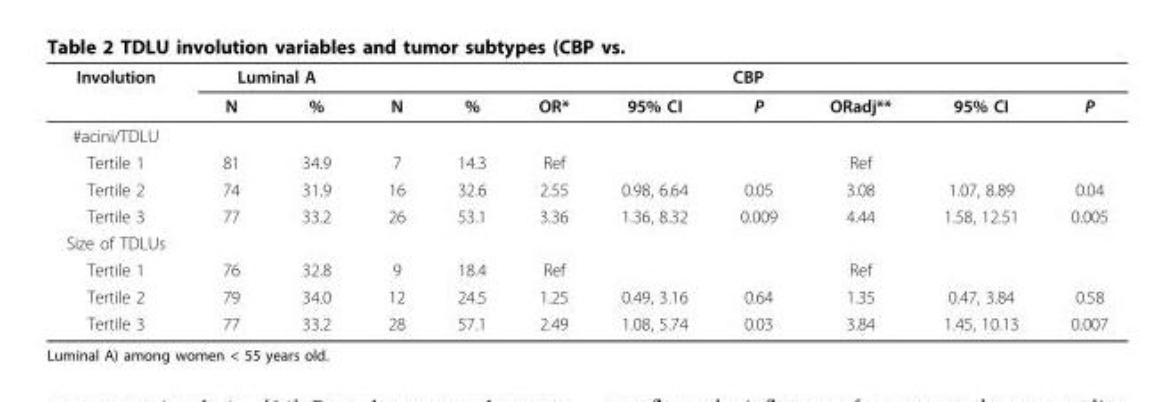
<table><thead><tr><td rowspan="2">Involution</td><td colspan="2">Luminal A</td><td colspan="8">CBP</td></tr><tr><td>N</td><td>%</td><td>N</td><td>%</td><td>OR*</td><td>95% CI</td><td>P</td><td>ORadj**</td><td>95% CI</td><td>P</td></tr></thead><tbody><tr><td colspan="11">#acini/TDLU</td></tr><tr><td>Tertile 1</td><td>81</td><td>34.9</td><td>7</td><td>14.3</td><td>Ref</td><td></td><td></td><td>Ref</td><td></td><td></td></tr><tr><td>Tertile 2</td><td>74</td><td>31.9</td><td>16</td><td>32.6</td><td>2.55</td><td>0.98, 6.64</td><td>0.05</td><td>3.08</td><td>1.07, 8.89</td><td>0.04</td></tr><tr><td>Tertile 3</td><td>77</td><td>33.2</td><td>26</td><td>53.1</td><td>3.36</td><td>1.36, 8.32</td><td>0.009</td><td>4.44</td><td>1.58, 12.51</td><td>0.005</td></tr><tr><td colspan="11">Size of TDLUs</td></tr><tr><td>Tertile 1</td><td>76</td><td>32.8</td><td>9</td><td>18.4</td><td>Ref</td><td></td><td></td><td>Ref</td><td></td><td></td></tr><tr><td>Tertile 2</td><td>79</td><td>34.0</td><td>12</td><td>24.5</td><td>1.25</td><td>0.49, 3.16</td><td>0.64</td><td>1.35</td><td>0.47, 3.84</td><td>0.58</td></tr><tr><td>Tertile 3</td><td>77</td><td>33.2</td><td>28</td><td>57.1</td><td>2.49</td><td>1.08, 5.74</td><td>0.03</td><td>3.84</td><td>1.45, 10.13</td><td>0.007</td></tr></tbody></table>